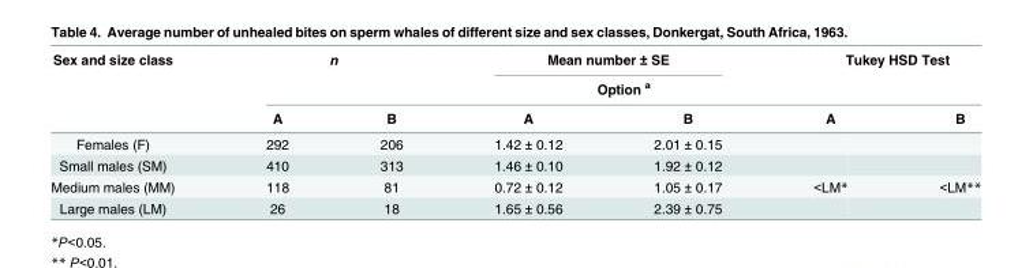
<table><thead><tr><td rowspan="3">Sex and size class</td><td colspan="2">n</td><td colspan="2">Mean number ± SE</td><td colspan="2">Tukey HSD Test</td></tr><tr><td colspan="6">Option <sup>a</sup></td></tr><tr><td>A</td><td>B</td><td>A</td><td>B</td><td>A</td><td>B</td></tr></thead><tbody><tr><td>Females (F)</td><td>292</td><td>206</td><td>1.42 ± 0.12</td><td>2.01 ± 0.15</td><td></td><td></td></tr><tr><td>Small males (SM)</td><td>410</td><td>313</td><td>1.46 ± 0.10</td><td>1.92 ± 0.12</td><td></td><td></td></tr><tr><td>Medium males (MM)</td><td>118</td><td>81</td><td>0.72 ± 0.12</td><td>1.05 ± 0.17</td><td>&lt;LM*</td><td>&lt;LM**</td></tr><tr><td>Large males (LM)</td><td>26</td><td>18</td><td>1.65 ± 0.56</td><td>2.39 ± 0.75</td><td></td><td></td></tr></tbody></table>